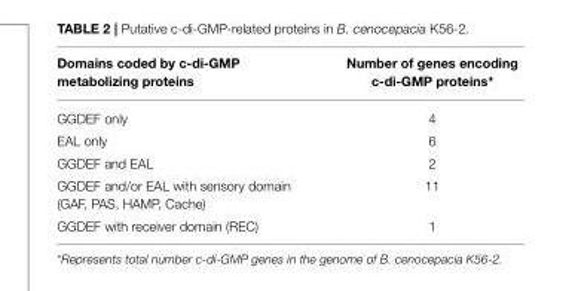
<table><thead><tr><td>Domains coded by c-di-GMP metabolizing proteins</td><td>Number of genes encoding c-di-GMP proteins*</td></tr></thead><tbody><tr><td>GGDEF only</td><td>4</td></tr><tr><td>EAL only</td><td>6</td></tr><tr><td>GGDEF and EAL</td><td>2</td></tr><tr><td>GGDEF and/or EAL with sensory domain (GAF, PAS, HAMP, Cache)</td><td>11</td></tr><tr><td>GGDEF with receiver domain (REC)</td><td>1</td></tr></tbody></table>